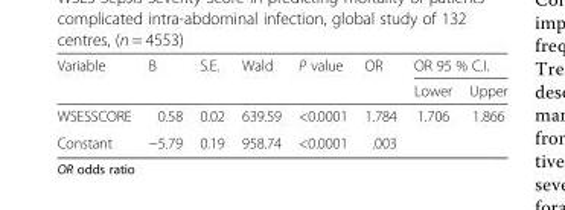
<table><thead><tr><td rowspan="2">Variable</td><td rowspan="2">B</td><td rowspan="2">S.E.</td><td rowspan="2">Wald</td><td rowspan="2">P value</td><td rowspan="2">OR</td><td colspan="2">OR 95 % C.I.</td></tr><tr><td>Lower</td><td>Upper</td></tr></thead><tbody><tr><td>WSESSCORE</td><td>0.58</td><td>0.02</td><td>639.59</td><td>&lt;0.0001</td><td>1.784</td><td>1.706</td><td>1.866</td></tr><tr><td>Constant</td><td>−5.79</td><td>0.19</td><td>958.74</td><td>&lt;0.0001</td><td>.003</td><td></td><td></td></tr></tbody></table>